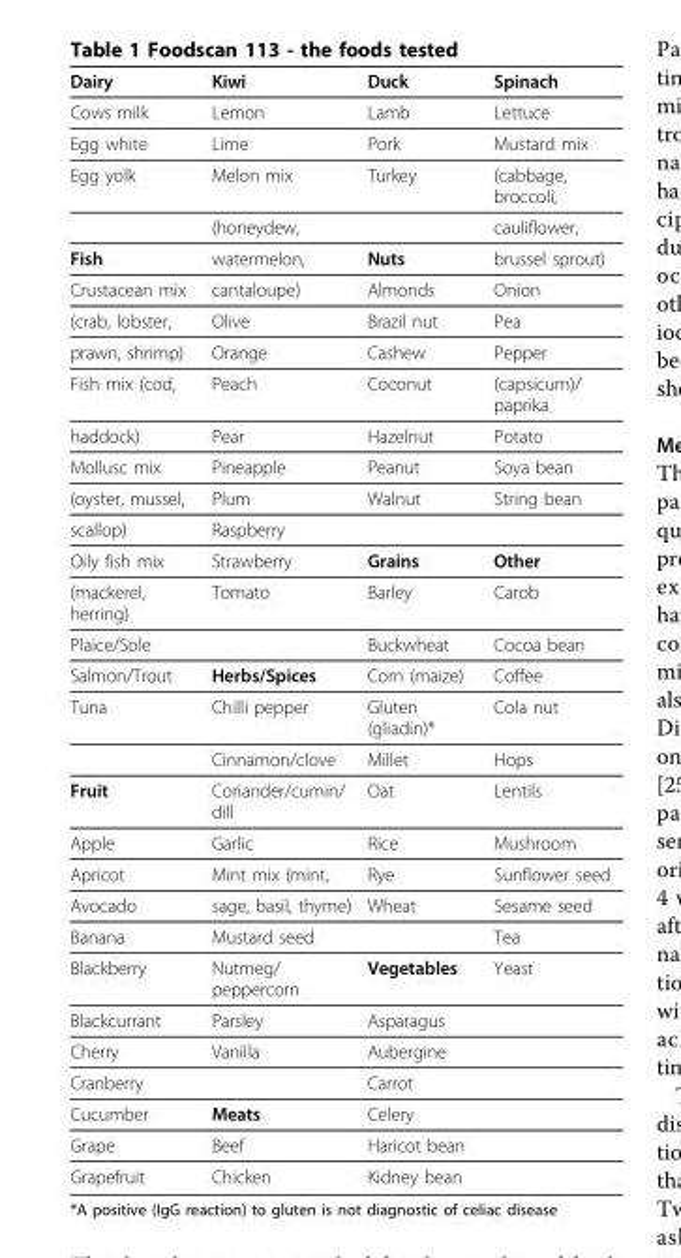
<table><thead><tr><td>Dairy</td><td>Kiwi</td><td>Duck</td><td>Spinach</td></tr></thead><tbody><tr><td>Cows milk</td><td>Lemon</td><td>Lamb</td><td>Lettuce</td></tr><tr><td>Egg white</td><td>Lime</td><td>Pork</td><td>Mustard mix</td></tr><tr><td rowspan="2">Egg yolk</td><td>Melon mix</td><td>Turkey</td><td>(cabbage, broccoli,</td></tr><tr><td>(honeydew,</td><td></td><td>cauliflower,</td></tr><tr><td>Fish</td><td>watermelon,</td><td>Nuts</td><td>brussel sprout)</td></tr><tr><td>Crustacean mix</td><td>cantaloupe)</td><td>Almonds</td><td>Onion</td></tr><tr><td>(crab, lobster,</td><td>Olive</td><td>Brazil nut</td><td>Pea</td></tr><tr><td>prawn, shrimp)</td><td>Orange</td><td>Cashew</td><td>Pepper</td></tr><tr><td>Fish mix (cod,</td><td>Peach</td><td>Coconut</td><td>(capsicum)/ paprika</td></tr><tr><td>haddock)</td><td>Pear</td><td>Hazelnut</td><td>Potato</td></tr><tr><td>Mollusc mix</td><td>Pineapple</td><td>Peanut</td><td>Soya bean</td></tr><tr><td>(oyster, mussel,</td><td>Plum</td><td>Walnut</td><td>String bean</td></tr><tr><td>scallop)</td><td>Raspberry</td><td></td><td></td></tr><tr><td>Oily fish mix</td><td>Strawberry</td><td>Grains</td><td>Other</td></tr><tr><td>(mackerel, herring)</td><td>Tomato</td><td>Barley</td><td>Carob</td></tr><tr><td>Plaice/Sole</td><td></td><td>Buckwheat</td><td>Cocoa bean</td></tr><tr><td>Salmon/Trout</td><td>Herbs/Spices</td><td>Corn (maize)</td><td>Coffee</td></tr><tr><td rowspan="2">Tuna</td><td>Chilli pepper</td><td>Gluten (gliadin)*</td><td>Cola nut</td></tr><tr><td>Cinnamon/clove</td><td>Millet</td><td>Hops</td></tr><tr><td>Fruit</td><td>Coriander/cumin/ dill</td><td>Oat</td><td>Lentils</td></tr><tr><td>Apple</td><td>Garlic</td><td>Rice</td><td>Mushroom</td></tr><tr><td>Apricot</td><td>Mint mix (mint,</td><td>Rye</td><td>Sunflower seed</td></tr><tr><td>Avocado</td><td>sage, basil, thyme)</td><td>Wheat</td><td>Sesame seed</td></tr><tr><td>Banana</td><td>Mustard seed</td><td></td><td>Tea</td></tr><tr><td>Blackberry</td><td>Nutmeg/ peppercorn</td><td>Vegetables</td><td>Yeast</td></tr><tr><td>Blackcurrant</td><td>Parsley</td><td>Asparagus</td><td></td></tr><tr><td>Cherry</td><td>Vanilla</td><td>Aubergine</td><td></td></tr><tr><td>Cranberry</td><td></td><td>Carrot</td><td></td></tr><tr><td>Cucumber</td><td>Meats</td><td>Celery</td><td></td></tr><tr><td>Grape</td><td>Beef</td><td>Haricot bean</td><td></td></tr><tr><td>Grapefruit</td><td>Chicken</td><td>Kidney bean</td><td></td></tr></tbody></table>